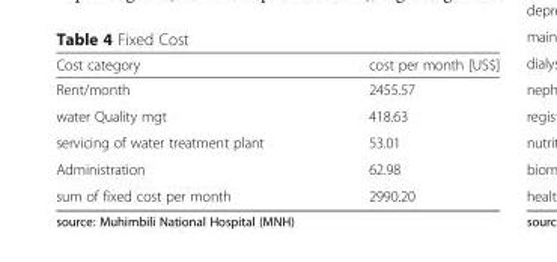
<table><thead><tr><td>Cost category</td><td>cost per month [US$]</td></tr></thead><tbody><tr><td>Rent/month</td><td>2455.57</td></tr><tr><td>water Quality mgt</td><td>418.63</td></tr><tr><td>servicing of water treatment plant</td><td>53.01</td></tr><tr><td>Administration</td><td>62.98</td></tr><tr><td>sum of fixed cost per month</td><td>2990.20</td></tr></tbody></table>